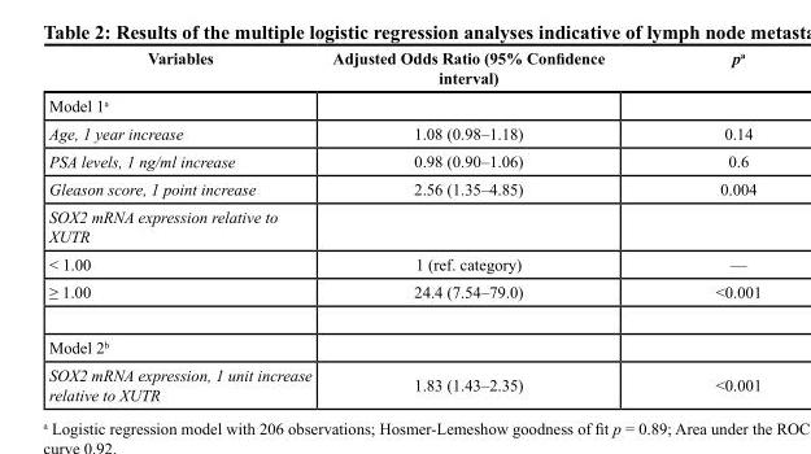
<table><thead><tr><td>Variables</td><td>Adjusted Odds Ratio (95% Confidence interval)</td><td>p<sup>a</sup></td></tr></thead><tbody><tr><td colspan="3">Model 1<sup>a</sup></td></tr><tr><td>Age, 1 year increase</td><td>1.08 (0.98–1.18)</td><td>0.14</td></tr><tr><td>PSA levels, 1 ng/ml increase</td><td>0.98 (0.90–1.06)</td><td>0.6</td></tr><tr><td>Gleason score, 1 point increase</td><td>2.56 (1.35–4.85)</td><td>0.004</td></tr><tr><td colspan="3">SOX2 mRNA expression relative to XUTR</td></tr><tr><td>&lt; 1.00</td><td>1 (ref. category)</td><td>—</td></tr><tr><td>≥ 1.00</td><td>24.4 (7.54–79.0)</td><td>&lt;0.001</td></tr><tr><td colspan="3">Model 2<sup>b</sup></td></tr><tr><td>SOX2 mRNA expression, 1 unit increase relative to XUTR</td><td>1.83 (1.43–2.35)</td><td>&lt;0.001</td></tr></tbody></table>